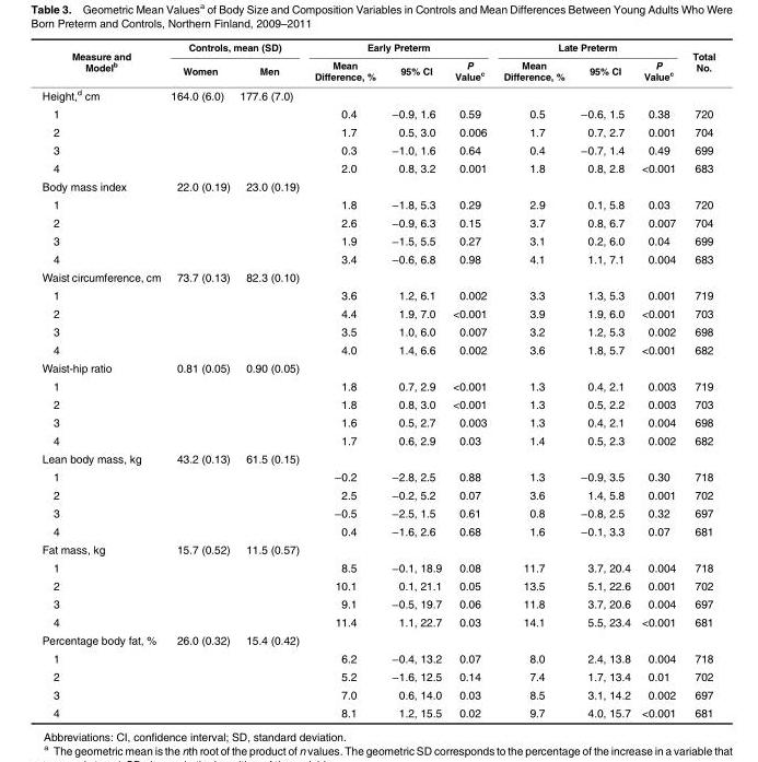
<table><thead><tr><td rowspan="2">Measure and Model<sup>b</sup></td><td colspan="2">Controls, mean (SD)</td><td colspan="3">Early Preterm</td><td colspan="3">Late Preterm</td><td rowspan="2">Total No.</td></tr><tr><td>Women</td><td>Men</td><td>Mean Difference, %</td><td>95% CI</td><td>P Value<sup>c</sup></td><td>Mean Difference, %</td><td>95% CI</td><td>P Value<sup>c</sup></td></tr></thead><tbody><tr><td>Height,<sup>d</sup> cm</td><td>164.0 (6.0)</td><td>177.6 (7.0)</td><td></td><td></td><td></td><td></td><td></td><td></td><td></td></tr><tr><td>1</td><td></td><td></td><td>0.4</td><td>−0.9, 1.6</td><td>0.59</td><td>0.5</td><td>−0.6, 1.5</td><td>0.38</td><td>720</td></tr><tr><td>2</td><td></td><td></td><td>1.7</td><td>0.5, 3.0</td><td>0.006</td><td>1.7</td><td>0.7, 2.7</td><td>0.001</td><td>704</td></tr><tr><td>3</td><td></td><td></td><td>0.3</td><td>−1.0, 1.6</td><td>0.64</td><td>0.4</td><td>−0.7, 1.4</td><td>0.49</td><td>699</td></tr><tr><td>4</td><td></td><td></td><td>2.0</td><td>0.8, 3.2</td><td>0.001</td><td>1.8</td><td>0.8, 2.8</td><td>&lt;0.001</td><td>683</td></tr><tr><td>Body mass index</td><td>22.0 (0.19)</td><td>23.0 (0.19)</td><td></td><td></td><td></td><td></td><td></td><td></td><td></td></tr><tr><td>1</td><td></td><td></td><td>1.8</td><td>−1.8, 5.3</td><td>0.29</td><td>2.9</td><td>0.1, 5.8</td><td>0.03</td><td>720</td></tr><tr><td>2</td><td></td><td></td><td>2.6</td><td>−0.9, 6.3</td><td>0.15</td><td>3.7</td><td>0.8, 6.7</td><td>0.007</td><td>704</td></tr><tr><td>3</td><td></td><td></td><td>1.9</td><td>−1.5, 5.5</td><td>0.27</td><td>3.1</td><td>0.2, 6.0</td><td>0.04</td><td>699</td></tr><tr><td>4</td><td></td><td></td><td>3.4</td><td>−0.6, 6.8</td><td>0.98</td><td>4.1</td><td>1.1, 7.1</td><td>0.004</td><td>683</td></tr><tr><td>Waist circumference, cm</td><td>73.7 (0.13)</td><td>82.3 (0.10)</td><td></td><td></td><td></td><td></td><td></td><td></td><td></td></tr><tr><td>1</td><td></td><td></td><td>3.6</td><td>1.2, 6.1</td><td>0.002</td><td>3.3</td><td>1.3, 5.3</td><td>0.001</td><td>719</td></tr><tr><td>2</td><td></td><td></td><td>4.4</td><td>1.9, 7.0</td><td>&lt;0.001</td><td>3.9</td><td>1.9, 6.0</td><td>&lt;0.001</td><td>703</td></tr><tr><td>3</td><td></td><td></td><td>3.5</td><td>1.0, 6.0</td><td>0.007</td><td>3.2</td><td>1.2, 5.3</td><td>0.002</td><td>698</td></tr><tr><td>4</td><td></td><td></td><td>4.0</td><td>1.4, 6.6</td><td>0.002</td><td>3.6</td><td>1.8, 5.7</td><td>&lt;0.001</td><td>682</td></tr><tr><td>Waist-hip ratio</td><td>0.81 (0.05)</td><td>0.90 (0.05)</td><td></td><td></td><td></td><td></td><td></td><td></td><td></td></tr><tr><td>1</td><td></td><td></td><td>1.8</td><td>0.7, 2.9</td><td>&lt;0.001</td><td>1.3</td><td>0.4, 2.1</td><td>0.003</td><td>719</td></tr><tr><td>2</td><td></td><td></td><td>1.8</td><td>0.8, 3.0</td><td>&lt;0.001</td><td>1.3</td><td>0.5, 2.2</td><td>0.003</td><td>703</td></tr><tr><td>3</td><td></td><td></td><td>1.6</td><td>0.5, 2.7</td><td>0.003</td><td>1.3</td><td>0.4, 2.1</td><td>0.004</td><td>698</td></tr><tr><td>4</td><td></td><td></td><td>1.7</td><td>0.6, 2.9</td><td>0.03</td><td>1.4</td><td>0.5, 2.3</td><td>0.002</td><td>682</td></tr><tr><td>Lean body mass, kg</td><td>43.2 (0.13)</td><td>61.5 (0.15)</td><td></td><td></td><td></td><td></td><td></td><td></td><td></td></tr><tr><td>1</td><td></td><td></td><td>−0.2</td><td>−2.8, 2.5</td><td>0.88</td><td>1.3</td><td>−0.9, 3.5</td><td>0.30</td><td>718</td></tr><tr><td>2</td><td></td><td></td><td>2.5</td><td>−0.2, 5.2</td><td>0.07</td><td>3.6</td><td>1.4, 5.8</td><td>0.001</td><td>702</td></tr><tr><td>3</td><td></td><td></td><td>−0.5</td><td>−2.5, 1.5</td><td>0.61</td><td>0.8</td><td>−0.8, 2.5</td><td>0.32</td><td>697</td></tr><tr><td>4</td><td></td><td></td><td>0.4</td><td>−1.6, 2.6</td><td>0.68</td><td>1.6</td><td>−0.1, 3.3</td><td>0.07</td><td>681</td></tr><tr><td>Fat mass, kg</td><td>15.7 (0.52)</td><td>11.5 (0.57)</td><td></td><td></td><td></td><td></td><td></td><td></td><td></td></tr><tr><td>1</td><td></td><td></td><td>8.5</td><td>−0.1, 18.9</td><td>0.08</td><td>11.7</td><td>3.7, 20.4</td><td>0.004</td><td>718</td></tr><tr><td>2</td><td></td><td></td><td>10.1</td><td>0.1, 21.1</td><td>0.05</td><td>13.5</td><td>5.1, 22.6</td><td>0.001</td><td>702</td></tr><tr><td>3</td><td></td><td></td><td>9.1</td><td>−0.5, 19.7</td><td>0.06</td><td>11.8</td><td>3.7, 20.6</td><td>0.004</td><td>697</td></tr><tr><td>4</td><td></td><td></td><td>11.4</td><td>1.1, 22.7</td><td>0.03</td><td>14.1</td><td>5.5, 23.4</td><td>&lt;0.001</td><td>681</td></tr><tr><td>Percentage body fat, %</td><td>26.0 (0.32)</td><td>15.4 (0.42)</td><td></td><td></td><td></td><td></td><td></td><td></td><td></td></tr><tr><td>1</td><td></td><td></td><td>6.2</td><td>−0.4, 13.2</td><td>0.07</td><td>8.0</td><td>2.4, 13.8</td><td>0.004</td><td>718</td></tr><tr><td>2</td><td></td><td></td><td>5.2</td><td>−1.6, 12.5</td><td>0.14</td><td>7.4</td><td>1.7, 13.4</td><td>0.01</td><td>702</td></tr><tr><td>3</td><td></td><td></td><td>7.0</td><td>0.6, 14.0</td><td>0.03</td><td>8.5</td><td>3.1, 14.2</td><td>0.002</td><td>697</td></tr><tr><td>4</td><td></td><td></td><td>8.1</td><td>1.2, 15.5</td><td>0.02</td><td>9.7</td><td>4.0, 15.7</td><td>&lt;0.001</td><td>681</td></tr></tbody></table>